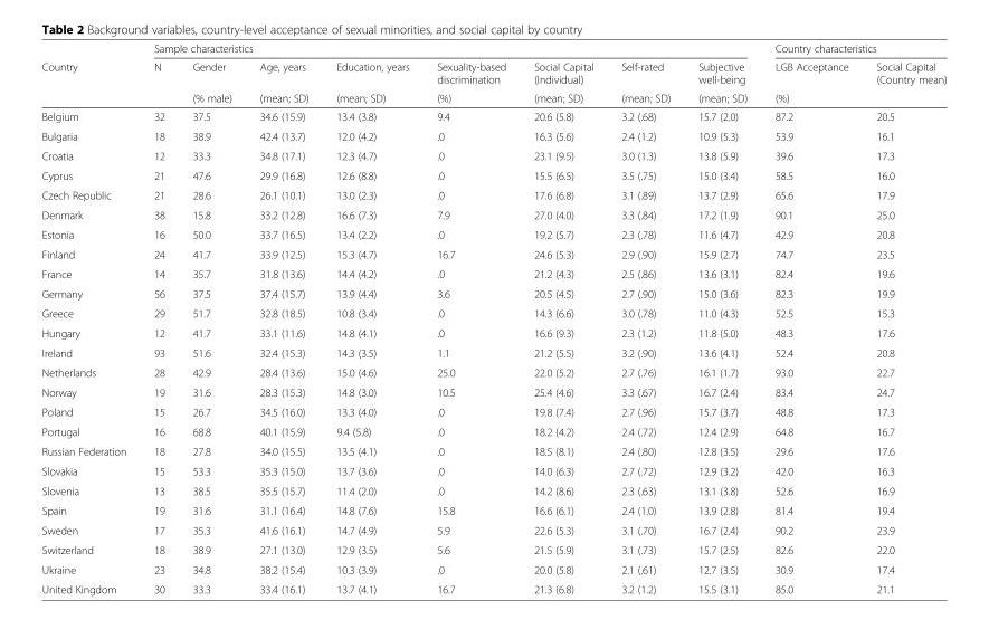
<table><thead><tr><td rowspan="3">Country</td><td colspan="8">Sample characteristics</td><td colspan="2">Country characteristics</td></tr><tr><td rowspan="2">N</td><td rowspan="2">Gender (% male)</td><td rowspan="2">Age, years (mean; SD)</td><td rowspan="2">Education, years (mean; SD)</td><td rowspan="2">Sexuality-based discrimination (%)</td><td rowspan="2">Social Capital (Individual) (mean; SD)</td><td rowspan="2">Self-rated (mean; SD)</td><td rowspan="2">Subjective well-being (mean; SD)</td><td rowspan="2">LGB Acceptance (%)</td><td rowspan="2">Social Capital (Country mean)</td></tr><tr></tr></thead><tbody><tr><td>Belgium</td><td>32</td><td>37.5</td><td>34.6 (15.9)</td><td>13.4 (3.8)</td><td>9.4</td><td>20.6 (5.8)</td><td>3.2 (.68)</td><td>15.7 (2.0)</td><td>87.2</td><td>20.5</td></tr><tr><td>Bulgaria</td><td>18</td><td>38.9</td><td>42.4 (13.7)</td><td>12.0 (4.2)</td><td>.0</td><td>16.3 (5.6)</td><td>2.4 (1.2)</td><td>10.9 (5.3)</td><td>53.9</td><td>16.1</td></tr><tr><td>Croatia</td><td>12</td><td>33.3</td><td>34.8 (17.1)</td><td>12.3 (4.7)</td><td>.0</td><td>23.1 (9.5)</td><td>3.0 (1.3)</td><td>13.8 (5.9)</td><td>39.6</td><td>17.3</td></tr><tr><td>Cyprus</td><td>21</td><td>47.6</td><td>29.9 (16.8)</td><td>12.6 (8.8)</td><td>.0</td><td>15.5 (6.5)</td><td>3.5 (.75)</td><td>15.0 (3.4)</td><td>58.5</td><td>16.0</td></tr><tr><td>Czech Republic</td><td>21</td><td>28.6</td><td>26.1 (10.1)</td><td>13.0 (2.3)</td><td>.0</td><td>17.6 (6.8)</td><td>3.1 (.89)</td><td>13.7 (2.9)</td><td>65.6</td><td>17.9</td></tr><tr><td>Denmark</td><td>38</td><td>15.8</td><td>33.2 (12.8)</td><td>16.6 (7.3)</td><td>7.9</td><td>27.0 (4.0)</td><td>3.3 (.84)</td><td>17.2 (1.9)</td><td>90.1</td><td>25.0</td></tr><tr><td>Estonia</td><td>16</td><td>50.0</td><td>33.7 (16.5)</td><td>13.4 (2.2)</td><td>.0</td><td>19.2 (5.7)</td><td>2.3 (.78)</td><td>11.6 (4.7)</td><td>42.9</td><td>20.8</td></tr><tr><td>Finland</td><td>24</td><td>41.7</td><td>33.9 (12.5)</td><td>15.3 (4.7)</td><td>16.7</td><td>24.6 (5.3)</td><td>2.9 (.90)</td><td>15.9 (2.7)</td><td>74.7</td><td>23.5</td></tr><tr><td>France</td><td>14</td><td>35.7</td><td>31.8 (13.6)</td><td>14.4 (4.2)</td><td>.0</td><td>21.2 (4.3)</td><td>2.5 (.86)</td><td>13.6 (3.1)</td><td>82.4</td><td>19.6</td></tr><tr><td>Germany</td><td>56</td><td>37.5</td><td>37.4 (15.7)</td><td>13.9 (4.4)</td><td>3.6</td><td>20.5 (4.5)</td><td>2.7 (.90)</td><td>15.0 (3.6)</td><td>82.3</td><td>19.9</td></tr><tr><td>Greece</td><td>29</td><td>51.7</td><td>32.8 (18.5)</td><td>10.8 (3.4)</td><td>.0</td><td>14.3 (6.6)</td><td>3.0 (.78)</td><td>11.0 (4.3)</td><td>52.5</td><td>15.3</td></tr><tr><td>Hungary</td><td>12</td><td>41.7</td><td>33.1 (11.6)</td><td>14.8 (4.1)</td><td>.0</td><td>16.6 (9.3)</td><td>2.3 (1.2)</td><td>11.8 (5.0)</td><td>48.3</td><td>17.6</td></tr><tr><td>Ireland</td><td>93</td><td>51.6</td><td>32.4 (15.3)</td><td>14.3 (3.5)</td><td>1.1</td><td>21.2 (5.5)</td><td>3.2 (.90)</td><td>13.6 (4.1)</td><td>52.4</td><td>20.8</td></tr><tr><td>Netherlands</td><td>28</td><td>42.9</td><td>28.4 (13.6)</td><td>15.0 (4.6)</td><td>25.0</td><td>22.0 (5.2)</td><td>2.7 (.76)</td><td>16.1 (1.7)</td><td>93.0</td><td>22.7</td></tr><tr><td>Norway</td><td>19</td><td>31.6</td><td>28.3 (15.3)</td><td>14.8 (3.0)</td><td>10.5</td><td>25.4 (4.6)</td><td>3.3 (.67)</td><td>16.7 (2.4)</td><td>83.4</td><td>24.7</td></tr><tr><td>Poland</td><td>15</td><td>26.7</td><td>34.5 (16.0)</td><td>13.3 (4.0)</td><td>.0</td><td>19.8 (7.4)</td><td>2.7 (.96)</td><td>15.7 (3.7)</td><td>48.8</td><td>17.3</td></tr><tr><td>Portugal</td><td>16</td><td>68.8</td><td>40.1 (15.9)</td><td>9.4 (5.8)</td><td>.0</td><td>18.2 (4.2)</td><td>2.4 (.72)</td><td>12.4 (2.9)</td><td>64.8</td><td>16.7</td></tr><tr><td>Russian Federation</td><td>18</td><td>27.8</td><td>34.0 (15.5)</td><td>13.5 (4.1)</td><td>.0</td><td>18.5 (8.1)</td><td>2.4 (.80)</td><td>12.8 (3.5)</td><td>29.6</td><td>17.6</td></tr><tr><td>Slovakia</td><td>15</td><td>53.3</td><td>35.3 (15.0)</td><td>13.7 (3.6)</td><td>.0</td><td>14.0 (6.3)</td><td>2.7 (.72)</td><td>12.9 (3.2)</td><td>42.0</td><td>16.3</td></tr><tr><td>Slovenia</td><td>13</td><td>38.5</td><td>35.5 (15.7)</td><td>11.4 (2.0)</td><td>.0</td><td>14.2 (8.6)</td><td>2.3 (.63)</td><td>13.1 (3.8)</td><td>52.6</td><td>16.9</td></tr><tr><td>Spain</td><td>19</td><td>31.6</td><td>31.1 (16.4)</td><td>14.8 (7.6)</td><td>15.8</td><td>16.6 (6.1)</td><td>2.4 (1.0)</td><td>13.9 (2.8)</td><td>81.4</td><td>19.4</td></tr><tr><td>Sweden</td><td>17</td><td>35.3</td><td>41.6 (16.1)</td><td>14.7 (4.9)</td><td>5.9</td><td>22.6 (5.3)</td><td>3.1 (.70)</td><td>16.7 (2.4)</td><td>90.2</td><td>23.9</td></tr><tr><td>Switzerland</td><td>18</td><td>38.9</td><td>27.1 (13.0)</td><td>12.9 (3.5)</td><td>5.6</td><td>21.5 (5.9)</td><td>3.1 (.73)</td><td>15.7 (2.5)</td><td>82.6</td><td>22.0</td></tr><tr><td>Ukraine</td><td>23</td><td>34.8</td><td>38.2 (15.4)</td><td>10.3 (3.9)</td><td>.0</td><td>20.0 (5.8)</td><td>2.1 (.61)</td><td>12.7 (3.5)</td><td>30.9</td><td>17.4</td></tr><tr><td>United Kingdom</td><td>30</td><td>33.3</td><td>33.4 (16.1)</td><td>13.7 (4.1)</td><td>16.7</td><td>21.3 (6.8)</td><td>3.2 (1.2)</td><td>15.5 (3.1)</td><td>85.0</td><td>21.1</td></tr></tbody></table>